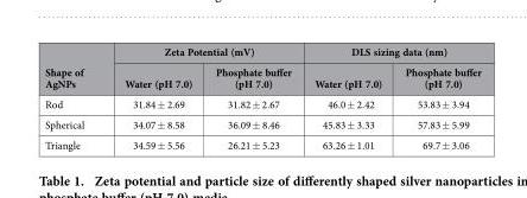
<table><thead><tr><td rowspan="2">Shape of AgNPs</td><td colspan="2">Zeta Potential (mV)</td><td colspan="2">DLS sizing data (nm)</td></tr><tr><td>Water (pH 7.0)</td><td>Phosphate buffer (pH 7.0)</td><td>Water (pH 7.0)</td><td>Phosphate buffer (pH 7.0)</td></tr></thead><tbody><tr><td>Rod</td><td>31.84 ± 2.69</td><td>31.82 ± 2.67</td><td>46.0 ± 2.42</td><td>53.83 ± 3.94</td></tr><tr><td>Spherical</td><td>34.07 ± 8.58</td><td>36.09 ± 8.46</td><td>45.83 ± 3.33</td><td>57.83 ± 5.99</td></tr><tr><td>Triangle</td><td>34.59 ± 5.56</td><td>26.21 ± 5.23</td><td>63.26 ± 1.01</td><td>69.7 ± 3.06</td></tr></tbody></table>